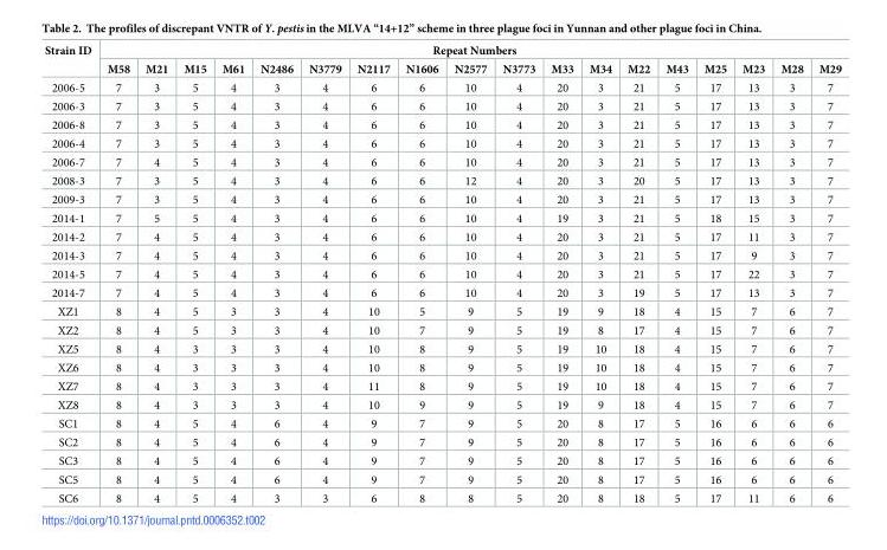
<table><thead><tr><td rowspan="2">Strain ID</td><td colspan="18">Repeat Numbers</td></tr><tr><td>M58</td><td>M21</td><td>M15</td><td>M61</td><td>N2486</td><td>N3779</td><td>N2117</td><td>N1606</td><td>N2577</td><td>N3773</td><td>M33</td><td>M34</td><td>M22</td><td>M43</td><td>M25</td><td>M23</td><td>M28</td><td>M29</td></tr></thead><tbody><tr><td>2006-5</td><td>7</td><td>3</td><td>5</td><td>4</td><td>3</td><td>4</td><td>6</td><td>6</td><td>10</td><td>4</td><td>20</td><td>3</td><td>21</td><td>5</td><td>17</td><td>13</td><td>3</td><td>7</td></tr><tr><td>2006-3</td><td>7</td><td>3</td><td>5</td><td>4</td><td>3</td><td>4</td><td>6</td><td>6</td><td>10</td><td>4</td><td>20</td><td>3</td><td>21</td><td>5</td><td>17</td><td>13</td><td>3</td><td>7</td></tr><tr><td>2006-8</td><td>7</td><td>3</td><td>5</td><td>4</td><td>3</td><td>4</td><td>6</td><td>6</td><td>10</td><td>4</td><td>20</td><td>3</td><td>21</td><td>5</td><td>17</td><td>13</td><td>3</td><td>7</td></tr><tr><td>2006-4</td><td>7</td><td>3</td><td>5</td><td>4</td><td>3</td><td>4</td><td>6</td><td>6</td><td>10</td><td>4</td><td>20</td><td>3</td><td>21</td><td>5</td><td>17</td><td>13</td><td>3</td><td>7</td></tr><tr><td>2006-7</td><td>7</td><td>4</td><td>5</td><td>4</td><td>3</td><td>4</td><td>6</td><td>6</td><td>10</td><td>4</td><td>20</td><td>3</td><td>21</td><td>5</td><td>17</td><td>13</td><td>3</td><td>7</td></tr><tr><td>2008-3</td><td>7</td><td>3</td><td>5</td><td>4</td><td>3</td><td>4</td><td>6</td><td>6</td><td>12</td><td>4</td><td>20</td><td>3</td><td>20</td><td>5</td><td>17</td><td>13</td><td>3</td><td>7</td></tr><tr><td>2009-3</td><td>7</td><td>3</td><td>5</td><td>4</td><td>3</td><td>4</td><td>6</td><td>6</td><td>10</td><td>4</td><td>20</td><td>3</td><td>21</td><td>5</td><td>17</td><td>13</td><td>3</td><td>7</td></tr><tr><td>2014-1</td><td>7</td><td>5</td><td>5</td><td>4</td><td>3</td><td>4</td><td>6</td><td>6</td><td>10</td><td>4</td><td>19</td><td>3</td><td>21</td><td>5</td><td>18</td><td>15</td><td>3</td><td>7</td></tr><tr><td>2014-2</td><td>7</td><td>4</td><td>5</td><td>4</td><td>3</td><td>4</td><td>6</td><td>6</td><td>10</td><td>4</td><td>20</td><td>3</td><td>21</td><td>5</td><td>17</td><td>11</td><td>3</td><td>7</td></tr><tr><td>2014-3</td><td>7</td><td>4</td><td>5</td><td>4</td><td>3</td><td>4</td><td>6</td><td>6</td><td>10</td><td>4</td><td>20</td><td>3</td><td>21</td><td>5</td><td>17</td><td>9</td><td>3</td><td>7</td></tr><tr><td>2014-5</td><td>7</td><td>4</td><td>5</td><td>4</td><td>3</td><td>4</td><td>6</td><td>6</td><td>10</td><td>4</td><td>20</td><td>3</td><td>21</td><td>5</td><td>17</td><td>22</td><td>3</td><td>7</td></tr><tr><td>2014-7</td><td>7</td><td>4</td><td>5</td><td>4</td><td>3</td><td>4</td><td>6</td><td>6</td><td>10</td><td>4</td><td>20</td><td>3</td><td>19</td><td>5</td><td>17</td><td>13</td><td>3</td><td>7</td></tr><tr><td>XZ1</td><td>8</td><td>4</td><td>5</td><td>3</td><td>3</td><td>4</td><td>10</td><td>5</td><td>9</td><td>5</td><td>19</td><td>9</td><td>18</td><td>4</td><td>15</td><td>7</td><td>6</td><td>7</td></tr><tr><td>XZ2</td><td>8</td><td>4</td><td>5</td><td>3</td><td>3</td><td>4</td><td>10</td><td>7</td><td>9</td><td>5</td><td>19</td><td>8</td><td>17</td><td>4</td><td>15</td><td>7</td><td>6</td><td>7</td></tr><tr><td>XZ5</td><td>8</td><td>4</td><td>3</td><td>3</td><td>3</td><td>4</td><td>10</td><td>8</td><td>9</td><td>5</td><td>19</td><td>10</td><td>18</td><td>4</td><td>15</td><td>7</td><td>6</td><td>7</td></tr><tr><td>XZ6</td><td>8</td><td>4</td><td>3</td><td>3</td><td>3</td><td>4</td><td>10</td><td>8</td><td>9</td><td>5</td><td>19</td><td>10</td><td>18</td><td>4</td><td>15</td><td>7</td><td>6</td><td>7</td></tr><tr><td>XZ7</td><td>8</td><td>4</td><td>3</td><td>3</td><td>3</td><td>4</td><td>11</td><td>8</td><td>9</td><td>5</td><td>19</td><td>10</td><td>18</td><td>4</td><td>15</td><td>7</td><td>6</td><td>7</td></tr><tr><td>XZ8</td><td>8</td><td>4</td><td>3</td><td>3</td><td>3</td><td>4</td><td>10</td><td>9</td><td>9</td><td>5</td><td>19</td><td>9</td><td>18</td><td>4</td><td>15</td><td>7</td><td>6</td><td>7</td></tr><tr><td>SC1</td><td>8</td><td>4</td><td>5</td><td>4</td><td>6</td><td>4</td><td>9</td><td>7</td><td>9</td><td>5</td><td>20</td><td>8</td><td>17</td><td>5</td><td>16</td><td>6</td><td>6</td><td>6</td></tr><tr><td>SC2</td><td>8</td><td>4</td><td>5</td><td>4</td><td>6</td><td>4</td><td>9</td><td>7</td><td>9</td><td>5</td><td>20</td><td>8</td><td>17</td><td>5</td><td>16</td><td>6</td><td>6</td><td>6</td></tr><tr><td>SC3</td><td>8</td><td>4</td><td>5</td><td>4</td><td>6</td><td>4</td><td>9</td><td>7</td><td>9</td><td>5</td><td>20</td><td>8</td><td>17</td><td>5</td><td>16</td><td>6</td><td>6</td><td>6</td></tr><tr><td>SC5</td><td>8</td><td>4</td><td>5</td><td>4</td><td>6</td><td>4</td><td>9</td><td>7</td><td>9</td><td>5</td><td>20</td><td>8</td><td>17</td><td>5</td><td>16</td><td>6</td><td>6</td><td>6</td></tr><tr><td>SC6</td><td>8</td><td>4</td><td>5</td><td>4</td><td>3</td><td>3</td><td>6</td><td>8</td><td>8</td><td>5</td><td>20</td><td>8</td><td>18</td><td>5</td><td>17</td><td>11</td><td>6</td><td>6</td></tr></tbody></table>